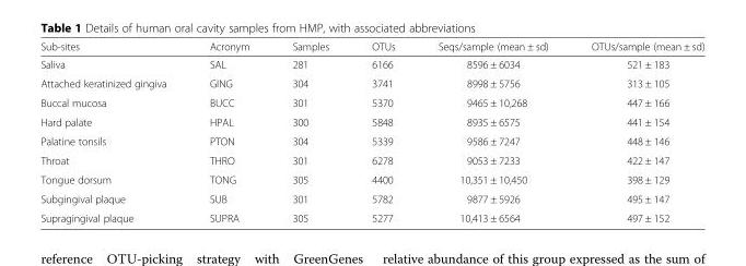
<table><thead><tr><td>Sub-sites</td><td>Acronym</td><td>Samples</td><td>OTUs</td><td>Seqs/sample (mean ± sd)</td><td>OTUs/sample (mean ± sd)</td></tr></thead><tbody><tr><td>Saliva</td><td>SAL</td><td>281</td><td>6166</td><td>8596 ± 6034</td><td>521 ± 183</td></tr><tr><td>Attached keratinized gingiva</td><td>GING</td><td>304</td><td>3741</td><td>8998 ± 5756</td><td>313 ± 105</td></tr><tr><td>Buccal mucosa</td><td>BUCC</td><td>301</td><td>5370</td><td>9465 ± 10,268</td><td>447 ± 166</td></tr><tr><td>Hard palate</td><td>HPAL</td><td>300</td><td>5848</td><td>8935 ± 6575</td><td>441 ± 154</td></tr><tr><td>Palatine tonsils</td><td>PTON</td><td>304</td><td>5339</td><td>9586 ± 7247</td><td>448 ± 146</td></tr><tr><td>Throat</td><td>THRO</td><td>301</td><td>6278</td><td>9053 ± 7233</td><td>422 ± 147</td></tr><tr><td>Tongue dorsum</td><td>TONG</td><td>305</td><td>4400</td><td>10,351 ± 10,450</td><td>398 ± 129</td></tr><tr><td>Subgingival plaque</td><td>SUB</td><td>301</td><td>5782</td><td>9877 ± 5926</td><td>495 ± 147</td></tr><tr><td>Supragingival plaque</td><td>SUPRA</td><td>305</td><td>5277</td><td>10,413 ± 6564</td><td>497 ± 152</td></tr></tbody></table>